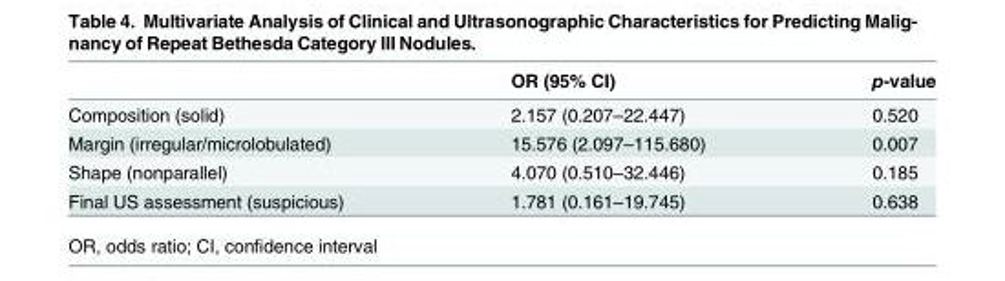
<table><thead><tr><td></td><td>OR (95% CI)</td><td>p-value</td></tr></thead><tbody><tr><td>Composition (solid)</td><td>2.157 (0.207–22.447)</td><td>0.520</td></tr><tr><td>Margin (irregular/microlobulated)</td><td>15.576 (2.097–115.680)</td><td>0.007</td></tr><tr><td>Shape (nonparallel)</td><td>4.070 (0.510–32.446)</td><td>0.185</td></tr><tr><td>Final US assessment (suspicious)</td><td>1.781 (0.161–19.745)</td><td>0.638</td></tr></tbody></table>